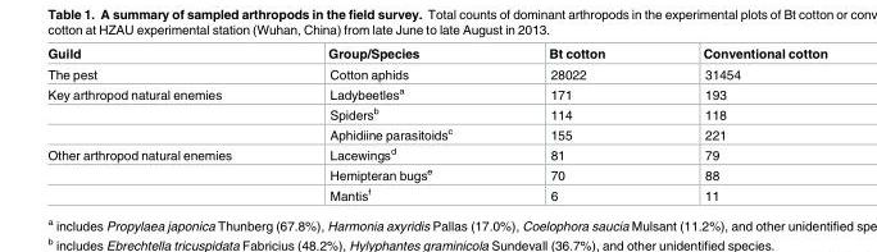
<table><thead><tr><td>Guild</td><td>Group/Species</td><td>Bt cotton</td><td>Conventional cotton</td></tr></thead><tbody><tr><td>The pest</td><td>Cotton aphids</td><td>28022</td><td>31454</td></tr><tr><td rowspan="3">Key arthropod natural enemies</td><td>Ladybeetles<sup>a</sup></td><td>171</td><td>193</td></tr><tr><td>Spiders<sup>b</sup></td><td>114</td><td>118</td></tr><tr><td>Aphidiine parasitoids<sup>c</sup></td><td>155</td><td>221</td></tr><tr><td rowspan="3">Other arthropod natural enemies</td><td>Lacewings<sup>d</sup></td><td>81</td><td>79</td></tr><tr><td>Hemipteran bugs<sup>e</sup></td><td>70</td><td>88</td></tr><tr><td>Mantis<sup>f</sup></td><td>6</td><td>11</td></tr></tbody></table>